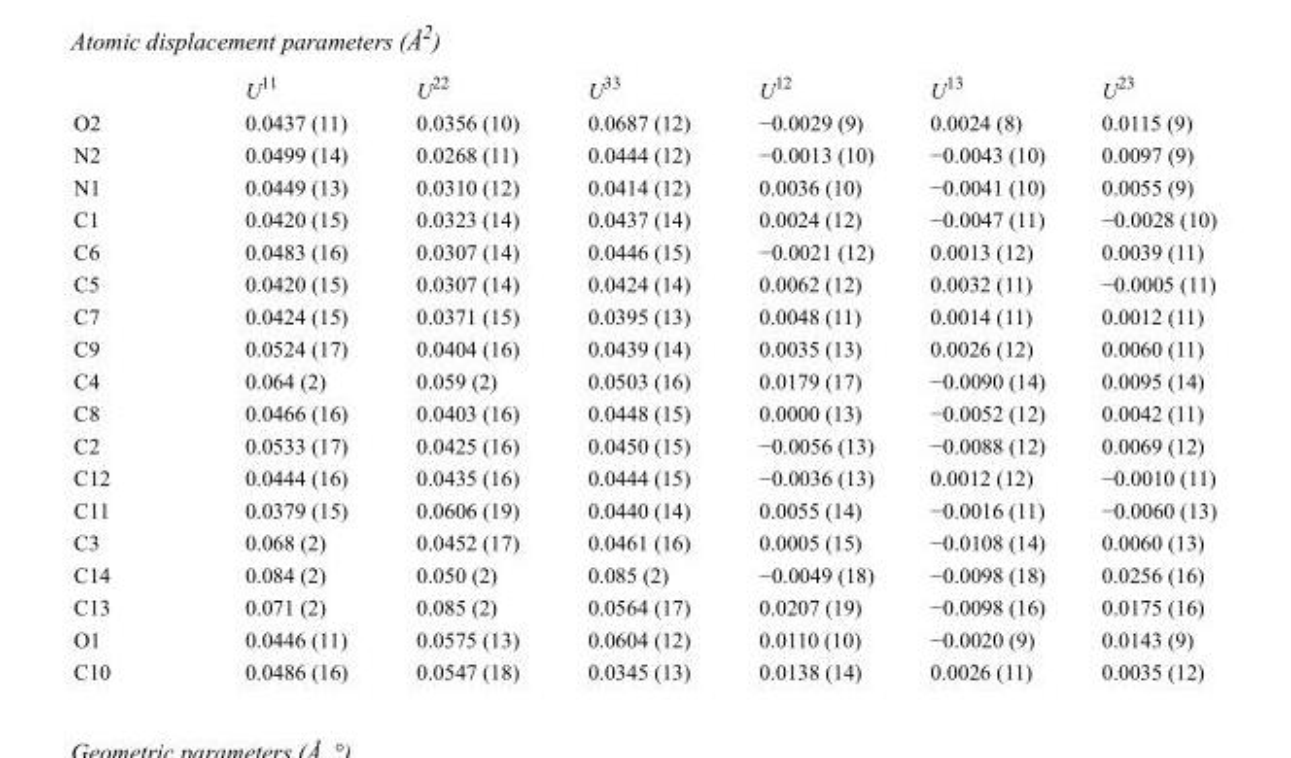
<table><thead><tr><td></td><td>U<sup>11</sup></td><td>U<sup>22</sup></td><td>U<sup>33</sup></td><td>U<sup>12</sup></td><td>U<sup>13</sup></td><td>U<sup>23</sup></td></tr></thead><tbody><tr><td>O2</td><td>0.0437 (11)</td><td>0.0356 (10)</td><td>0.0687 (12)</td><td>−0.0029 (9)</td><td>0.0024 (8)</td><td>0.0115 (9)</td></tr><tr><td>N2</td><td>0.0499 (14)</td><td>0.0268 (11)</td><td>0.0444 (12)</td><td>−0.0013 (10)</td><td>−0.0043 (10)</td><td>0.0097 (9)</td></tr><tr><td>N1</td><td>0.0449 (13)</td><td>0.0310 (12)</td><td>0.0414 (12)</td><td>0.0036 (10)</td><td>−0.0041 (10)</td><td>0.0055 (9)</td></tr><tr><td>C1</td><td>0.0420 (15)</td><td>0.0323 (14)</td><td>0.0437 (14)</td><td>0.0024 (12)</td><td>−0.0047 (11)</td><td>−0.0028 (10)</td></tr><tr><td>C6</td><td>0.0483 (16)</td><td>0.0307 (14)</td><td>0.0446 (15)</td><td>−0.0021 (12)</td><td>0.0013 (12)</td><td>0.0039 (11)</td></tr><tr><td>C5</td><td>0.0420 (15)</td><td>0.0307 (14)</td><td>0.0424 (14)</td><td>0.0062 (12)</td><td>0.0032 (11)</td><td>−0.0005 (11)</td></tr><tr><td>C7</td><td>0.0424 (15)</td><td>0.0371 (15)</td><td>0.0395 (13)</td><td>0.0048 (11)</td><td>0.0014 (11)</td><td>0.0012 (11)</td></tr><tr><td>C9</td><td>0.0524 (17)</td><td>0.0404 (16)</td><td>0.0439 (14)</td><td>0.0035 (13)</td><td>0.0026 (12)</td><td>0.0060 (11)</td></tr><tr><td>C4</td><td>0.064 (2)</td><td>0.059 (2)</td><td>0.0503 (16)</td><td>0.0179 (17)</td><td>−0.0090 (14)</td><td>0.0095 (14)</td></tr><tr><td>C8</td><td>0.0466 (16)</td><td>0.0403 (16)</td><td>0.0448 (15)</td><td>0.0000 (13)</td><td>−0.0052 (12)</td><td>0.0042 (11)</td></tr><tr><td>C2</td><td>0.0533 (17)</td><td>0.0425 (16)</td><td>0.0450 (15)</td><td>−0.0056 (13)</td><td>−0.0088 (12)</td><td>0.0069 (12)</td></tr><tr><td>C12</td><td>0.0444 (16)</td><td>0.0435 (16)</td><td>0.0444 (15)</td><td>−0.0036 (13)</td><td>0.0012 (12)</td><td>−0.0010 (11)</td></tr><tr><td>C11</td><td>0.0379 (15)</td><td>0.0606 (19)</td><td>0.0440 (14)</td><td>0.0055 (14)</td><td>−0.0016 (11)</td><td>−0.0060 (13)</td></tr><tr><td>C3</td><td>0.068 (2)</td><td>0.0452 (17)</td><td>0.0461 (16)</td><td>0.0005 (15)</td><td>−0.0108 (14)</td><td>0.0060 (13)</td></tr><tr><td>C14</td><td>0.084 (2)</td><td>0.050 (2)</td><td>0.085 (2)</td><td>−0.0049 (18)</td><td>−0.0098 (18)</td><td>0.0256 (16)</td></tr><tr><td>C13</td><td>0.071 (2)</td><td>0.085 (2)</td><td>0.0564 (17)</td><td>0.0207 (19)</td><td>−0.0098 (16)</td><td>0.0175 (16)</td></tr><tr><td>O1</td><td>0.0446 (11)</td><td>0.0575 (13)</td><td>0.0604 (12)</td><td>0.0110 (10)</td><td>−0.0020 (9)</td><td>0.0143 (9)</td></tr><tr><td>C10</td><td>0.0486 (16)</td><td>0.0547 (18)</td><td>0.0345 (13)</td><td>0.0138 (14)</td><td>0.0026 (11)</td><td>0.0035 (12)</td></tr></tbody></table>